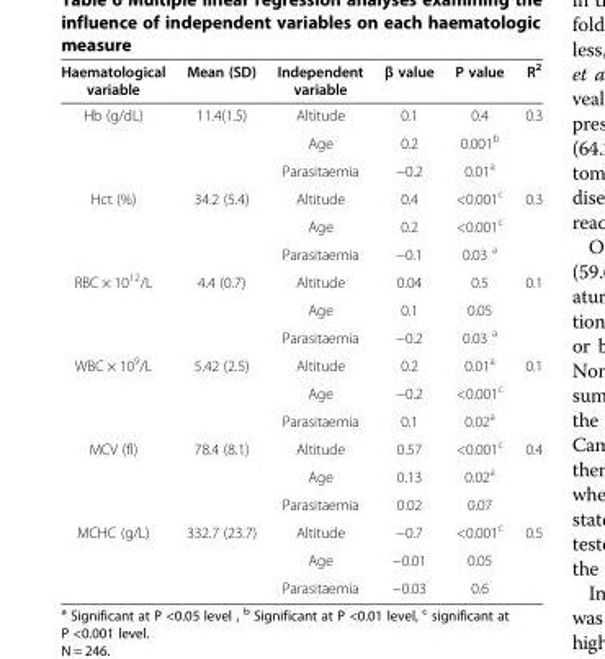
<table><thead><tr><td>Haematological variable</td><td>Mean (SD)</td><td>Independent variable</td><td>β value</td><td>P value</td><td>R<sup>2</sup></td></tr></thead><tbody><tr><td rowspan="3">Hb (g/dL)</td><td rowspan="3">11.4(1.5)</td><td>Altitude</td><td>0.1</td><td>0.4</td><td rowspan="3">0.3</td></tr><tr><td>Age</td><td>0.2</td><td>0.001<sup>b</sup></td></tr><tr><td>Parasitaemia</td><td>−0.2</td><td>0.01<sup>a</sup></td></tr><tr><td rowspan="3">Hct (%)</td><td rowspan="3">34.2 (5.4)</td><td>Altitude</td><td>0.4</td><td>&lt;0.001<sup>c</sup></td><td rowspan="3">0.3</td></tr><tr><td>Age</td><td>0.2</td><td>&lt;0.001<sup>c</sup></td></tr><tr><td>Parasitaemia</td><td>−0.1</td><td>0.03 <sup>a</sup></td></tr><tr><td rowspan="3">RBC × 10<sup>12</sup>/L</td><td rowspan="3">4.4 (0.7)</td><td>Altitude</td><td>0.04</td><td>0.5</td><td rowspan="3">0.1</td></tr><tr><td>Age</td><td>0.1</td><td>0.05</td></tr><tr><td>Parasitaemia</td><td>−0.2</td><td>0.03 <sup>a</sup></td></tr><tr><td rowspan="3">WBC × 10<sup>9</sup>/L</td><td rowspan="3">5.42 (2.5)</td><td>Altitude</td><td>0.2</td><td>0.01<sup>a</sup></td><td rowspan="3">0.1</td></tr><tr><td>Age</td><td>−0.2</td><td>&lt;0.001<sup>c</sup></td></tr><tr><td>Parasitaemia</td><td>0.1</td><td>0.02<sup>a</sup></td></tr><tr><td rowspan="3">MCV (fl)</td><td rowspan="3">78.4 (8.1)</td><td>Altitude</td><td>0.57</td><td>&lt;0.001<sup>c</sup></td><td rowspan="3">0.4</td></tr><tr><td>Age</td><td>0.13</td><td>0.02<sup>a</sup></td></tr><tr><td>Parasitaemia</td><td>0.02</td><td>0.07</td></tr><tr><td rowspan="3">MCHC (g/L)</td><td rowspan="3">332.7 (23.7)</td><td>Altitude</td><td>−0.7</td><td>&lt;0.001<sup>c</sup></td><td rowspan="3">0.5</td></tr><tr><td>Age</td><td>−0.01</td><td>0.05</td></tr><tr><td>Parasitaemia</td><td>−0.03</td><td>0.6</td></tr></tbody></table>